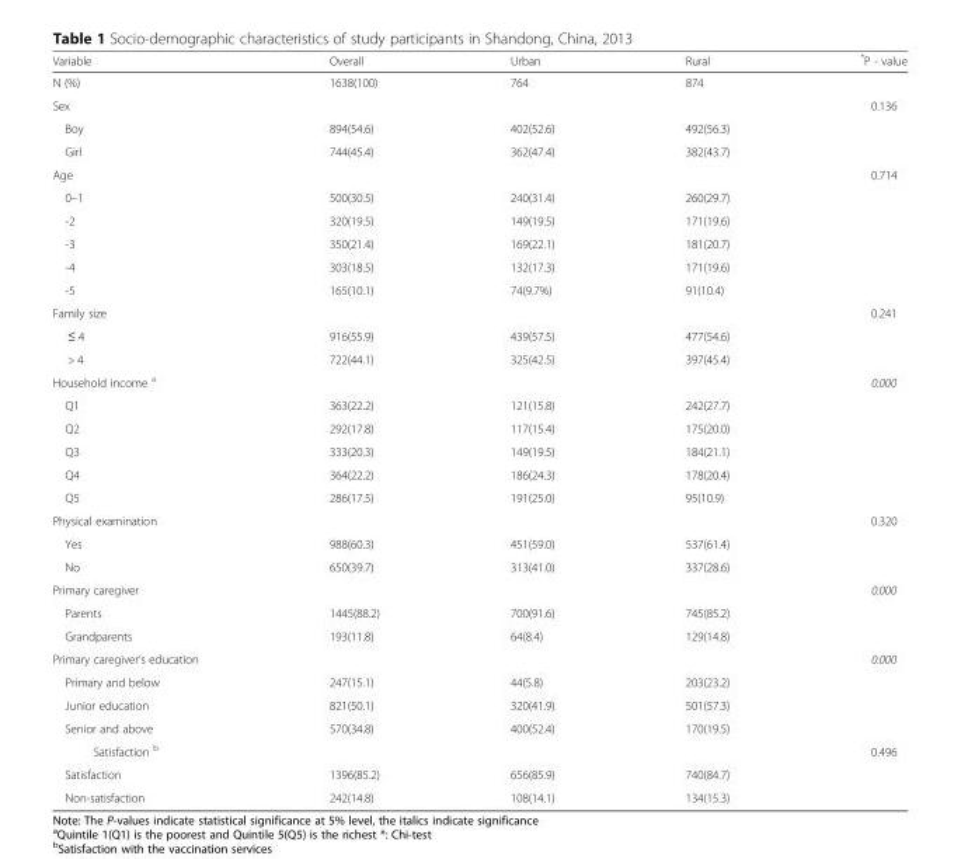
<table><thead><tr><td>Variable</td><td>Overall</td><td>Urban</td><td>Rural</td><td>*P - value</td></tr></thead><tbody><tr><td>N (%)</td><td>1638(100)</td><td>764</td><td>874</td><td></td></tr><tr><td>Sex</td><td></td><td></td><td></td><td>0.136</td></tr><tr><td>Boy</td><td>894(54.6)</td><td>402(52.6)</td><td>492(56.3)</td><td></td></tr><tr><td>Girl</td><td>744(45.4)</td><td>362(47.4)</td><td>382(43.7)</td><td></td></tr><tr><td>Age</td><td></td><td></td><td></td><td>0.714</td></tr><tr><td>0–1</td><td>500(30.5)</td><td>240(31.4)</td><td>260(29.7)</td><td></td></tr><tr><td>-2</td><td>320(19.5)</td><td>149(19.5)</td><td>171(19.6)</td><td></td></tr><tr><td>-3</td><td>350(21.4)</td><td>169(22.1)</td><td>181(20.7)</td><td></td></tr><tr><td>-4</td><td>303(18.5)</td><td>132(17.3)</td><td>171(19.6)</td><td></td></tr><tr><td>-5</td><td>165(10.1)</td><td>74(9.7%)</td><td>91(10.4)</td><td></td></tr><tr><td>Family size</td><td></td><td></td><td></td><td>0.241</td></tr><tr><td>≤ 4</td><td>916(55.9)</td><td>439(57.5)</td><td>477(54.6)</td><td></td></tr><tr><td>&gt; 4</td><td>722(44.1)</td><td>325(42.5)</td><td>397(45.4)</td><td></td></tr><tr><td>Household income <sup>a</sup></td><td></td><td></td><td></td><td>0.000</td></tr><tr><td>Q1</td><td>363(22.2)</td><td>121(15.8)</td><td>242(27.7)</td><td></td></tr><tr><td>Q2</td><td>292(17.8)</td><td>117(15.4)</td><td>175(20.0)</td><td></td></tr><tr><td>Q3</td><td>333(20.3)</td><td>149(19.5)</td><td>184(21.1)</td><td></td></tr><tr><td>Q4</td><td>364(22.2)</td><td>186(24.3)</td><td>178(20.4)</td><td></td></tr><tr><td>Q5</td><td>286(17.5)</td><td>191(25.0)</td><td>95(10.9)</td><td></td></tr><tr><td>Physical examination</td><td></td><td></td><td></td><td>0.320</td></tr><tr><td>Yes</td><td>988(60.3)</td><td>451(59.0)</td><td>537(61.4)</td><td></td></tr><tr><td>No</td><td>650(39.7)</td><td>313(41.0)</td><td>337(28.6)</td><td></td></tr><tr><td>Primary caregiver</td><td></td><td></td><td></td><td>0.000</td></tr><tr><td>Parents</td><td>1445(88.2)</td><td>700(91.6)</td><td>745(85.2)</td><td></td></tr><tr><td>Grandparents</td><td>193(11.8)</td><td>64(8.4)</td><td>129(14.8)</td><td></td></tr><tr><td>Primary caregiver’s education</td><td></td><td></td><td></td><td>0.000</td></tr><tr><td>Primary and below</td><td>247(15.1)</td><td>44(5.8)</td><td>203(23.2)</td><td></td></tr><tr><td>Junior education</td><td>821(50.1)</td><td>320(41.9)</td><td>501(57.3)</td><td></td></tr><tr><td>Senior and above</td><td>570(34.8)</td><td>400(52.4)</td><td>170(19.5)</td><td></td></tr><tr><td>Satisfaction <sup>b</sup></td><td></td><td></td><td></td><td>0.496</td></tr><tr><td>Satisfaction</td><td>1396(85.2)</td><td>656(85.9)</td><td>740(84.7)</td><td></td></tr><tr><td>Non-satisfaction</td><td>242(14.8)</td><td>108(14.1)</td><td>134(15.3)</td><td></td></tr></tbody></table>